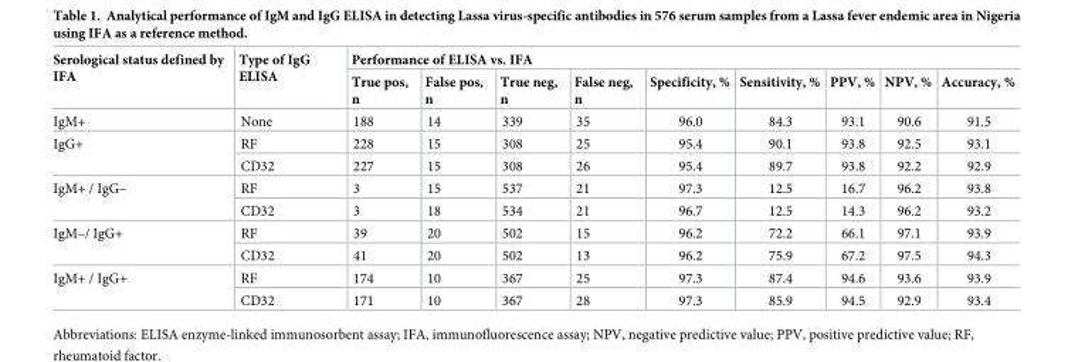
<table><thead><tr><td rowspan="2">Serological status defined by IFA</td><td rowspan="2">Type of IgG ELISA</td><td colspan="9">Performance of ELISA vs. IFA</td></tr><tr><td>True pos, n</td><td>False pos, n</td><td>True neg, n</td><td>False neg, n</td><td>Specificity, %</td><td>Sensitivity, %</td><td>PPV, %</td><td>NPV, %</td><td>Accuracy, %</td></tr></thead><tbody><tr><td>IgM+</td><td>None</td><td>188</td><td>14</td><td>339</td><td>35</td><td>96.0</td><td>84.3</td><td>93.1</td><td>90.6</td><td>91.5</td></tr><tr><td rowspan="2">IgG+</td><td>RF</td><td>228</td><td>15</td><td>308</td><td>25</td><td>95.4</td><td>90.1</td><td>93.8</td><td>92.5</td><td>93.1</td></tr><tr><td>CD32</td><td>227</td><td>15</td><td>308</td><td>26</td><td>95.4</td><td>89.7</td><td>93.8</td><td>92.2</td><td>92.9</td></tr><tr><td rowspan="2">IgM+ / IgG–</td><td>RF</td><td>3</td><td>15</td><td>537</td><td>21</td><td>97.3</td><td>12.5</td><td>16.7</td><td>96.2</td><td>93.8</td></tr><tr><td>CD32</td><td>3</td><td>18</td><td>534</td><td>21</td><td>96.7</td><td>12.5</td><td>14.3</td><td>96.2</td><td>93.2</td></tr><tr><td rowspan="2">IgM–/ IgG+</td><td>RF</td><td>39</td><td>20</td><td>502</td><td>15</td><td>96.2</td><td>72.2</td><td>66.1</td><td>97.1</td><td>93.9</td></tr><tr><td>CD32</td><td>41</td><td>20</td><td>502</td><td>13</td><td>96.2</td><td>75.9</td><td>67.2</td><td>97.5</td><td>94.3</td></tr><tr><td rowspan="2">IgM+ / IgG+</td><td>RF</td><td>174</td><td>10</td><td>367</td><td>25</td><td>97.3</td><td>87.4</td><td>94.6</td><td>93.6</td><td>93.9</td></tr><tr><td>CD32</td><td>171</td><td>10</td><td>367</td><td>28</td><td>97.3</td><td>85.9</td><td>94.5</td><td>92.9</td><td>93.4</td></tr></tbody></table>